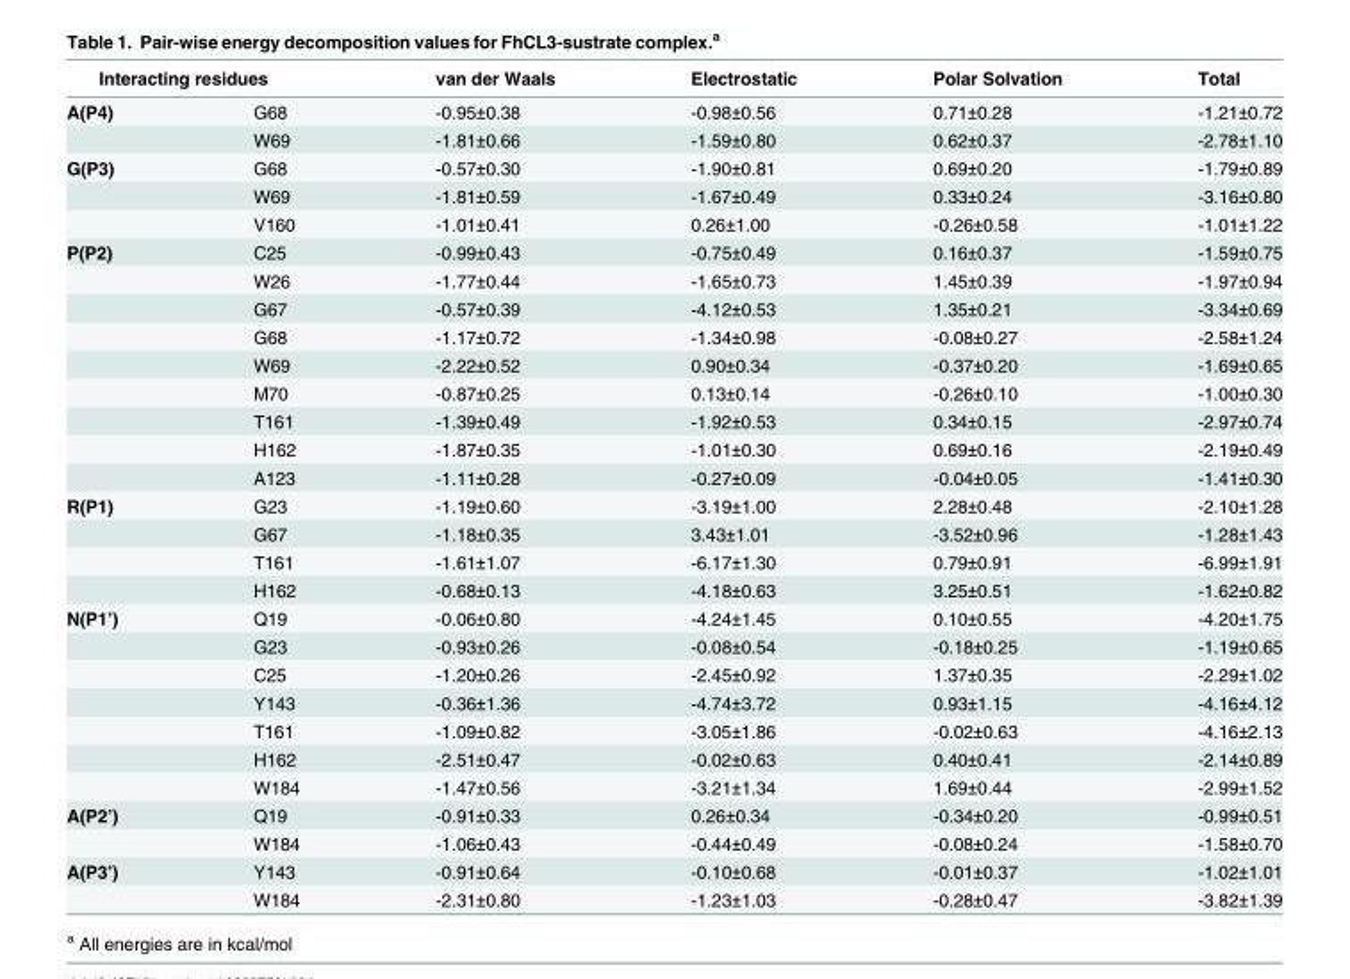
<table><thead><tr><td colspan="2">Interacting residues</td><td rowspan="2">van der Waals -0.95±0.38</td><td rowspan="2">Electrostatic -0.98±0.56</td><td rowspan="2">Polar Solvation 0.71±0.28</td><td rowspan="2">Total -1.21±0.72</td></tr><tr><td>A(P4)</td><td>G68</td></tr></thead><tbody><tr><td></td><td>W69</td><td>-1.81±0.66</td><td>-1.59±0.80</td><td>0.62±0.37</td><td>-2.78±1.10</td></tr><tr><td rowspan="3">G(P3)</td><td>G68</td><td>-0.57±0.30</td><td>-1.90±0.81</td><td>0.69±0.20</td><td>-1.79±0.89</td></tr><tr><td>W69</td><td>-1.81±0.59</td><td>-1.67±0.49</td><td>0.33±0.24</td><td>-3.16±0.80</td></tr><tr><td>V160</td><td>-1.01±0.41</td><td>0.26±1.00</td><td>-0.26±0.58</td><td>-1.01±1.22</td></tr><tr><td rowspan="9">P(P2)</td><td>C25</td><td>-0.99±0.43</td><td>-0.75±0.49</td><td>0.16±0.37</td><td>-1.59±0.75</td></tr><tr><td>W26</td><td>-1.77±0.44</td><td>-1.65±0.73</td><td>1.45±0.39</td><td>-1.97±0.94</td></tr><tr><td>G67</td><td>-0.57±0.39</td><td>-4.12±0.53</td><td>1.35±0.21</td><td>-3.34±0.69</td></tr><tr><td>G68</td><td>-1.17±0.72</td><td>-1.34±0.98</td><td>-0.08±0.27</td><td>-2.58±1.24</td></tr><tr><td>W69</td><td>-2.22±0.52</td><td>0.90±0.34</td><td>-0.37±0.20</td><td>-1.69±0.65</td></tr><tr><td>M70</td><td>-0.87±0.25</td><td>0.13±0.14</td><td>-0.26±0.10</td><td>-1.00±0.30</td></tr><tr><td>T161</td><td>-1.39±0.49</td><td>-1.92±0.53</td><td>0.34±0.15</td><td>-2.97±0.74</td></tr><tr><td>H162</td><td>-1.87±0.35</td><td>-1.01±0.30</td><td>0.69±0.16</td><td>-2.19±0.49</td></tr><tr><td>A123</td><td>-1.11±0.28</td><td>-0.27±0.09</td><td>-0.04±0.05</td><td>-1.41±0.30</td></tr><tr><td rowspan="4">R(P1)</td><td>G23</td><td>-1.19±0.60</td><td>-3.19±1.00</td><td>2.28±0.48</td><td>-2.10±1.28</td></tr><tr><td>G67</td><td>-1.18±0.35</td><td>3.43±1.01</td><td>-3.52±0.96</td><td>-1.28±1.43</td></tr><tr><td>T161</td><td>-1.61±1.07</td><td>-6.17±1.30</td><td>0.79±0.91</td><td>-6.99±1.91</td></tr><tr><td>H162</td><td>-0.68±0.13</td><td>-4.18±0.63</td><td>3.25±0.51</td><td>-1.62±0.82</td></tr><tr><td rowspan="7">N(P1’)</td><td>Q19</td><td>-0.06±0.80</td><td>-4.24±1.45</td><td>0.10±0.55</td><td>-4.20±1.75</td></tr><tr><td>G23</td><td>-0.93±0.26</td><td>-0.08±0.54</td><td>-0.18±0.25</td><td>-1.19±0.65</td></tr><tr><td>C25</td><td>-1.20±0.26</td><td>-2.45±0.92</td><td>1.37±0.35</td><td>-2.29±1.02</td></tr><tr><td>Y143</td><td>-0.36±1.36</td><td>-4.74±3.72</td><td>0.93±1.15</td><td>-4.16±4.12</td></tr><tr><td>T161</td><td>-1.09±0.82</td><td>-3.05±1.86</td><td>-0.02±0.63</td><td>-4.16±2.13</td></tr><tr><td>H162</td><td>-2.51±0.47</td><td>-0.02±0.63</td><td>0.40±0.41</td><td>-2.14±0.89</td></tr><tr><td>W184</td><td>-1.47±0.56</td><td>-3.21±1.34</td><td>1.69±0.44</td><td>-2.99±1.52</td></tr><tr><td rowspan="2">A(P2’)</td><td>Q19</td><td>-0.91±0.33</td><td>0.26±0.34</td><td>-0.34±0.20</td><td>-0.99±0.51</td></tr><tr><td>W184</td><td>-1.06±0.43</td><td>-0.44±0.49</td><td>-0.08±0.24</td><td>-1.58±0.70</td></tr><tr><td rowspan="2">A(P3’)</td><td>Y143</td><td>-0.91±0.64</td><td>-0.10±0.68</td><td>-0.01±0.37</td><td>-1.02±1.01</td></tr><tr><td>W184</td><td>-2.31±0.80</td><td>-1.23±1.03</td><td>-0.28±0.47</td><td>-3.82±1.39</td></tr></tbody></table>